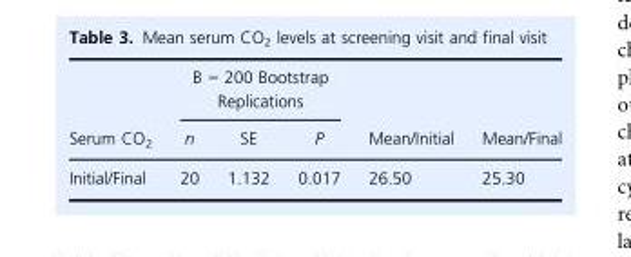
<table><thead><tr><td rowspan="2">Serum CO<sub>2</sub></td><td colspan="3">B = 200 Bootstrap Replications</td><td rowspan="2">Mean/Initial</td><td rowspan="2">Mean/Final</td></tr><tr><td>n</td><td>SE</td><td>P</td></tr></thead><tbody><tr><td>Initial/Final</td><td>20</td><td>1.132</td><td>0.017</td><td>26.50</td><td>25.30</td></tr></tbody></table>